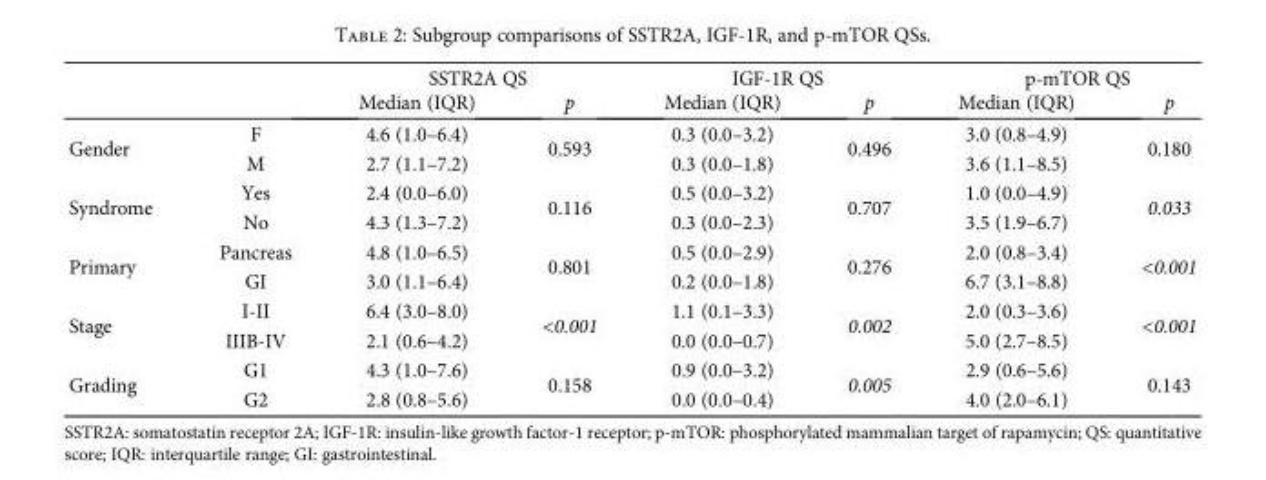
<table><thead><tr><td rowspan="2"></td><td rowspan="2"></td><td colspan="2">SSTR2A QS</td><td colspan="2">IGF-1R QS</td><td colspan="2">p-mTOR QS</td></tr><tr><td>Median (IQR)</td><td>p</td><td>Median (IQR)</td><td>p</td><td>Median (IQR)</td><td>p</td></tr></thead><tbody><tr><td rowspan="2">Gender</td><td>F</td><td>4.6 (1.0–6.4)</td><td rowspan="2">0.593</td><td>0.3 (0.0–3.2)</td><td rowspan="2">0.496</td><td>3.0 (0.8–4.9)</td><td rowspan="2">0.180</td></tr><tr><td>M</td><td>2.7 (1.1–7.2)</td><td>0.3 (0.0–1.8)</td><td>3.6 (1.1–8.5)</td></tr><tr><td rowspan="2">Syndrome</td><td>Yes</td><td>2.4 (0.0–6.0)</td><td rowspan="2">0.116</td><td>0.5 (0.0–3.2)</td><td rowspan="2">0.707</td><td>1.0 (0.0–4.9)</td><td rowspan="2">0.033</td></tr><tr><td>No</td><td>4.3 (1.3–7.2)</td><td>0.3 (0.0–2.3)</td><td>3.5 (1.9–6.7)</td></tr><tr><td rowspan="2">Primary</td><td>Pancreas</td><td>4.8 (1.0–6.5)</td><td rowspan="2">0.801</td><td>0.5 (0.0–2.9)</td><td rowspan="2">0.276</td><td>2.0 (0.8–3.4)</td><td rowspan="2">&lt;0.001</td></tr><tr><td>GI</td><td>3.0 (1.1–6.4)</td><td>0.2 (0.0–1.8)</td><td>6.7 (3.1–8.8)</td></tr><tr><td rowspan="2">Stage</td><td>I-II</td><td>6.4 (3.0–8.0)</td><td rowspan="2">&lt;0.001</td><td>1.1 (0.1–3.3)</td><td rowspan="2">0.002</td><td>2.0 (0.3–3.6)</td><td rowspan="2">&lt;0.001</td></tr><tr><td>IIIB-IV</td><td>2.1 (0.6–4.2)</td><td>0.0 (0.0–0.7)</td><td>5.0 (2.7–8.5)</td></tr><tr><td rowspan="2">Grading</td><td>G1</td><td>4.3 (1.0–7.6)</td><td rowspan="2">0.158</td><td>0.9 (0.0–3.2)</td><td rowspan="2">0.005</td><td>2.9 (0.6–5.6)</td><td rowspan="2">0.143</td></tr><tr><td>G2</td><td>2.8 (0.8–5.6)</td><td>0.0 (0.0–0.4)</td><td>4.0 (2.0–6.1)</td></tr></tbody></table>